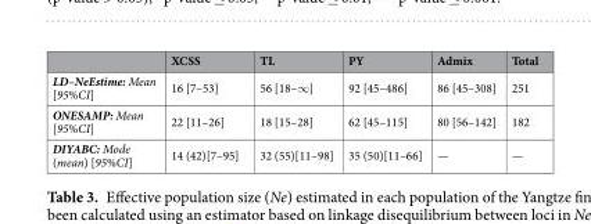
<table><thead><tr><td></td><td>XCSS</td><td>TL</td><td>PY</td><td>Admix</td><td>Total</td></tr></thead><tbody><tr><td>LD–NeEstime: Mean [95%CI]</td><td>16 [7–53]</td><td>56 [18–∞]</td><td>92 [45–486]</td><td>86 [45–308]</td><td>251</td></tr><tr><td>ONESAMP: Mean [95%CI]</td><td>22 [11–26]</td><td>18 [15–28]</td><td>62 [45–115]</td><td>80 [56–142]</td><td>182</td></tr><tr><td>DIYABC: Mode (mean) [95%CI]</td><td>14 (42)[7–95]</td><td>32 (55)[11–98]</td><td>35 (50)[11–66]</td><td>—</td><td>—</td></tr></tbody></table>